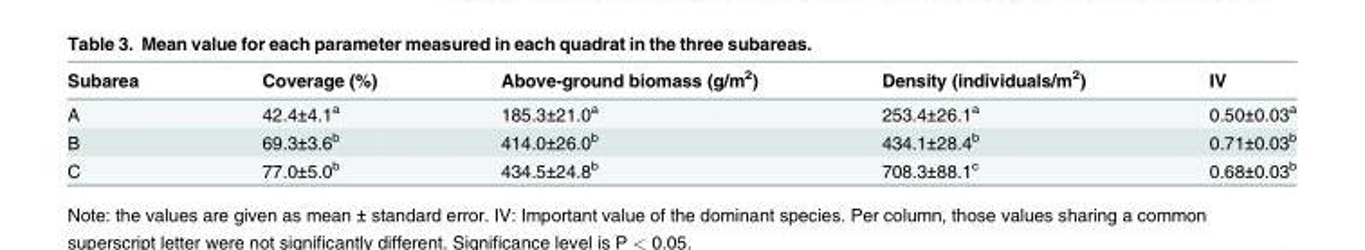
<table><thead><tr><td>Subarea</td><td>Coverage (%)</td><td>Above-ground biomass (g/m<sup>2</sup>)</td><td>Density (individuals/m<sup>2</sup>)</td><td>IV</td></tr></thead><tbody><tr><td>A</td><td>42.4±4.1<sup>a</sup></td><td>185.3±21.0<sup>a</sup></td><td>253.4±26.1<sup>a</sup></td><td>0.50±0.03<sup>a</sup></td></tr><tr><td>B</td><td>69.3±3.6<sup>b</sup></td><td>414.0±26.0<sup>b</sup></td><td>434.1±28.4<sup>b</sup></td><td>0.71±0.03<sup>b</sup></td></tr><tr><td>C</td><td>77.0±5.0<sup>b</sup></td><td>434.5±24.8<sup>b</sup></td><td>708.3±88.1<sup>c</sup></td><td>0.68±0.03<sup>b</sup></td></tr></tbody></table>